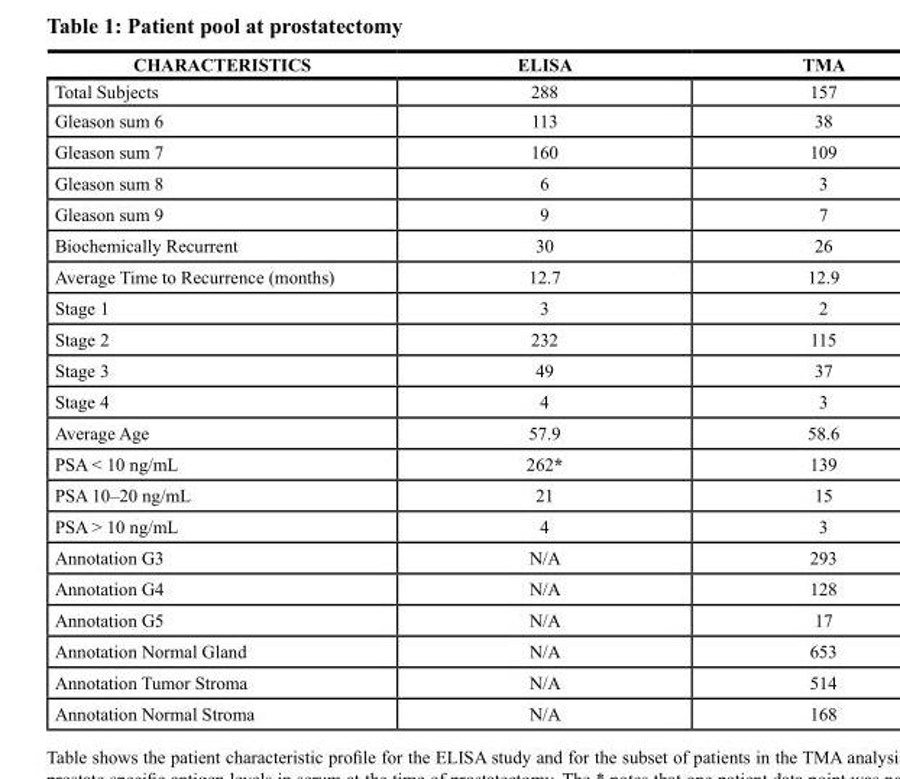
<table><thead><tr><td>CHARACTERISTICS</td><td>ELISA</td><td>TMA</td></tr></thead><tbody><tr><td>Total Subjects</td><td>288</td><td>157</td></tr><tr><td>Gleason sum 6</td><td>113</td><td>38</td></tr><tr><td>Gleason sum 7</td><td>160</td><td>109</td></tr><tr><td>Gleason sum 8</td><td>6</td><td>3</td></tr><tr><td>Gleason sum 9</td><td>9</td><td>7</td></tr><tr><td>Biochemically Recurrent</td><td>30</td><td>26</td></tr><tr><td>Average Time to Recurrence (months)</td><td>12.7</td><td>12.9</td></tr><tr><td>Stage 1</td><td>3</td><td>2</td></tr><tr><td>Stage 2</td><td>232</td><td>115</td></tr><tr><td>Stage 3</td><td>49</td><td>37</td></tr><tr><td>Stage 4</td><td>4</td><td>3</td></tr><tr><td>Average Age</td><td>57.9</td><td>58.6</td></tr><tr><td>PSA &lt; 10 ng/mL</td><td>262*</td><td>139</td></tr><tr><td>PSA 10–20 ng/mL</td><td>21</td><td>15</td></tr><tr><td>PSA &gt; 10 ng/mL</td><td>4</td><td>3</td></tr><tr><td>Annotation G3</td><td>N/A</td><td>293</td></tr><tr><td>Annotation G4</td><td>N/A</td><td>128</td></tr><tr><td>Annotation G5</td><td>N/A</td><td>17</td></tr><tr><td>Annotation Normal Gland</td><td>N/A</td><td>653</td></tr><tr><td>Annotation Tumor Stroma</td><td>N/A</td><td>514</td></tr><tr><td>Annotation Normal Stroma</td><td>N/A</td><td>168</td></tr></tbody></table>